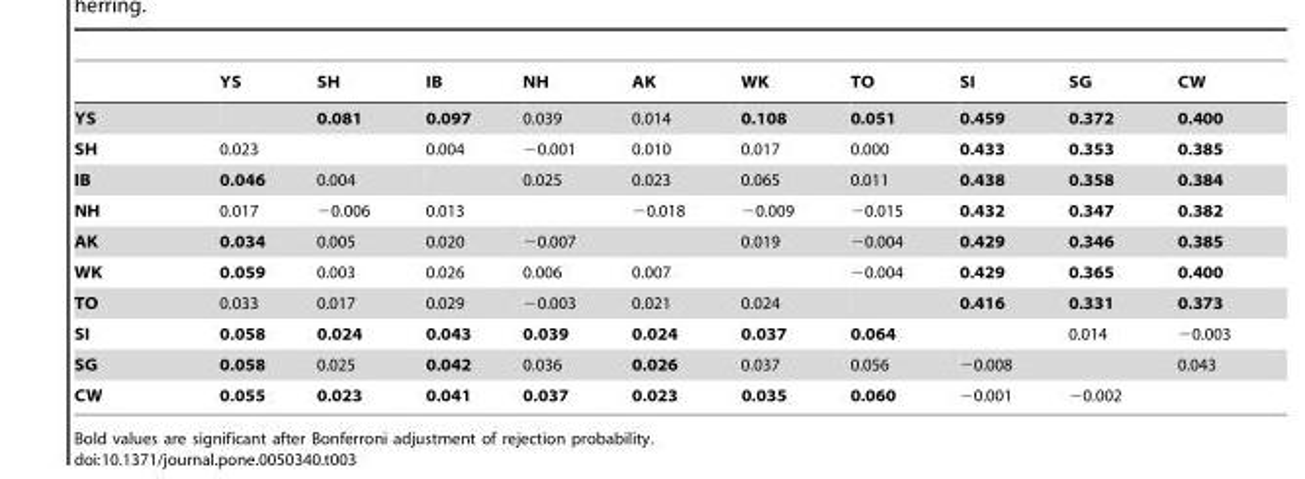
<table><thead><tr><td></td><td>YS</td><td>SH</td><td>IB</td><td>NH</td><td>AK</td><td>WK</td><td>TO</td><td>SI</td><td>SG</td><td>CW</td></tr></thead><tbody><tr><td>YS</td><td></td><td>0.081</td><td>0.097</td><td>0.039</td><td>0.014</td><td>0.108</td><td>0.051</td><td>0.459</td><td>0.372</td><td>0.400</td></tr><tr><td>SH</td><td>0.023</td><td></td><td>0.004</td><td>−0.001</td><td>0.010</td><td>0.017</td><td>0.000</td><td>0.433</td><td>0.353</td><td>0.385</td></tr><tr><td>IB</td><td>0.046</td><td>0.004</td><td></td><td>0.025</td><td>0.023</td><td>0.065</td><td>0.011</td><td>0.438</td><td>0.358</td><td>0.384</td></tr><tr><td>NH</td><td>0.017</td><td>−0.006</td><td>0.013</td><td></td><td>−0.018</td><td>−0.009</td><td>−0.015</td><td>0.432</td><td>0.347</td><td>0.382</td></tr><tr><td>AK</td><td>0.034</td><td>0.005</td><td>0.020</td><td>−0.007</td><td></td><td>0.019</td><td>−0.004</td><td>0.429</td><td>0.346</td><td>0.385</td></tr><tr><td>WK</td><td>0.059</td><td>0.003</td><td>0.026</td><td>0.006</td><td>0.007</td><td></td><td>−0.004</td><td>0.429</td><td>0.365</td><td>0.400</td></tr><tr><td>TO</td><td>0.033</td><td>0.017</td><td>0.029</td><td>−0.003</td><td>0.021</td><td>0.024</td><td></td><td>0.416</td><td>0.331</td><td>0.373</td></tr><tr><td>SI</td><td>0.058</td><td>0.024</td><td>0.043</td><td>0.039</td><td>0.024</td><td>0.037</td><td>0.064</td><td></td><td>0.014</td><td>−0.003</td></tr><tr><td>SG</td><td>0.058</td><td>0.025</td><td>0.042</td><td>0.036</td><td>0.026</td><td>0.037</td><td>0.056</td><td>−0.008</td><td></td><td>0.043</td></tr><tr><td>CW</td><td>0.055</td><td>0.023</td><td>0.041</td><td>0.037</td><td>0.023</td><td>0.035</td><td>0.060</td><td>−0.001</td><td>−0.002</td><td></td></tr></tbody></table>